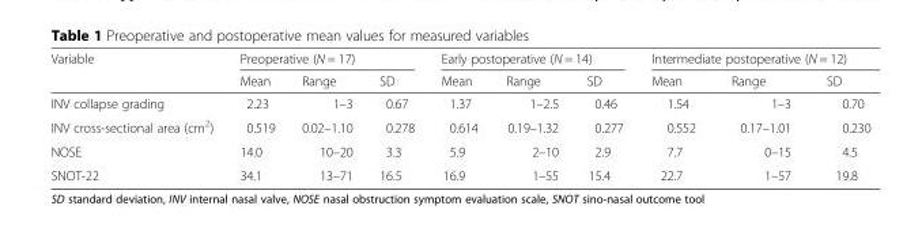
<table><thead><tr><td rowspan="2">Variable</td><td colspan="3">Preoperative (N = 17)</td><td colspan="3">Early postoperative (N = 14)</td><td colspan="3">Intermediate postoperative (N = 12)</td></tr><tr><td>Mean</td><td>Range</td><td>SD</td><td>Mean</td><td>Range</td><td>SD</td><td>Mean</td><td>Range</td><td>SD</td></tr></thead><tbody><tr><td>INV collapse grading</td><td>2.23</td><td>1–3</td><td>0.67</td><td>1.37</td><td>1–2.5</td><td>0.46</td><td>1.54</td><td>1–3</td><td>0.70</td></tr><tr><td>INV cross-sectional area (cm<sup>2</sup>)</td><td>0.519</td><td>0.02–1.10</td><td>0.278</td><td>0.614</td><td>0.19–1.32</td><td>0.277</td><td>0.552</td><td>0.17–1.01</td><td>0.230</td></tr><tr><td>NOSE</td><td>14.0</td><td>10–20</td><td>3.3</td><td>5.9</td><td>2–10</td><td>2.9</td><td>7.7</td><td>0–15</td><td>4.5</td></tr><tr><td>SNOT-22</td><td>34.1</td><td>13–71</td><td>16.5</td><td>16.9</td><td>1–55</td><td>15.4</td><td>22.7</td><td>1–57</td><td>19.8</td></tr></tbody></table>